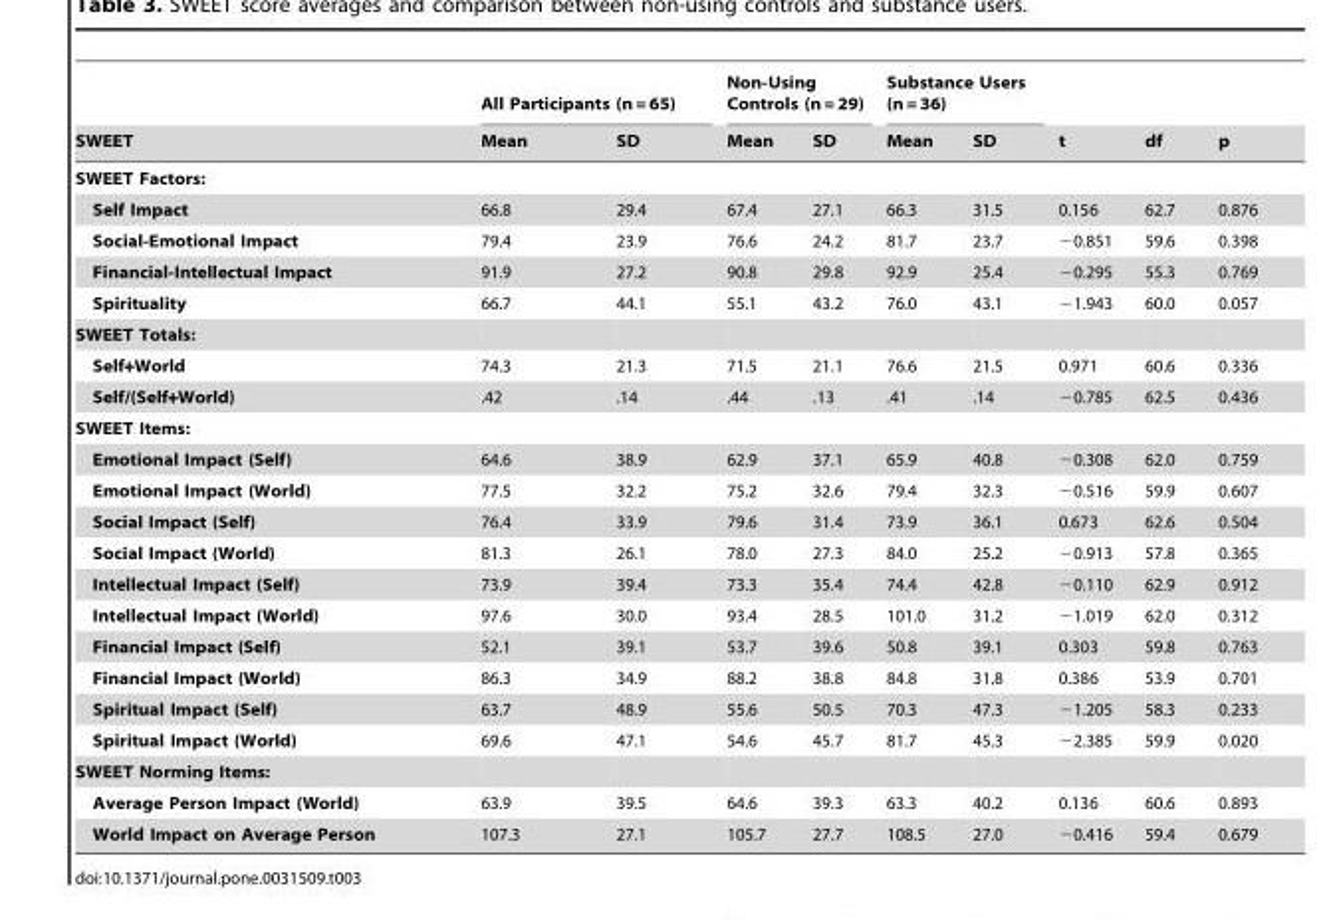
<table><thead><tr><td rowspan="2">SWEET</td><td colspan="2">All Participants (n = 65)</td><td colspan="2">Non-Using Controls (n = 29)</td><td colspan="2">Substance Users (n = 36)</td><td rowspan="2">t</td><td rowspan="2">df</td><td rowspan="2">p</td></tr><tr><td>Mean</td><td>SD</td><td>Mean</td><td>SD</td><td>Mean</td><td>SD</td></tr></thead><tbody><tr><td colspan="10">SWEET Factors:</td></tr><tr><td>Self Impact</td><td>66.8</td><td>29.4</td><td>67.4</td><td>27.1</td><td>66.3</td><td>31.5</td><td>0.156</td><td>62.7</td><td>0.876</td></tr><tr><td>Social-Emotional Impact</td><td>79.4</td><td>23.9</td><td>76.6</td><td>24.2</td><td>81.7</td><td>23.7</td><td>−0.851</td><td>59.6</td><td>0.398</td></tr><tr><td>Financial-Intellectual Impact</td><td>91.9</td><td>27.2</td><td>90.8</td><td>29.8</td><td>92.9</td><td>25.4</td><td>−0.295</td><td>55.3</td><td>0.769</td></tr><tr><td>Spirituality</td><td>66.7</td><td>44.1</td><td>55.1</td><td>43.2</td><td>76.0</td><td>43.1</td><td>−1.943</td><td>60.0</td><td>0.057</td></tr><tr><td colspan="10">SWEET Totals:</td></tr><tr><td>Self+World</td><td>74.3</td><td>21.3</td><td>71.5</td><td>21.1</td><td>76.6</td><td>21.5</td><td>0.971</td><td>60.6</td><td>0.336</td></tr><tr><td>Self/(Self+World)</td><td>.42</td><td>.14</td><td>.44</td><td>.13</td><td>.41</td><td>.14</td><td>−0.785</td><td>62.5</td><td>0.436</td></tr><tr><td colspan="10">SWEET Items:</td></tr><tr><td>Emotional Impact (Self)</td><td>64.6</td><td>38.9</td><td>62.9</td><td>37.1</td><td>65.9</td><td>40.8</td><td>−0.308</td><td>62.0</td><td>0.759</td></tr><tr><td>Emotional Impact (World)</td><td>77.5</td><td>32.2</td><td>75.2</td><td>32.6</td><td>79.4</td><td>32.3</td><td>−0.516</td><td>59.9</td><td>0.607</td></tr><tr><td>Social Impact (Self)</td><td>76.4</td><td>33.9</td><td>79.6</td><td>31.4</td><td>73.9</td><td>36.1</td><td>0.673</td><td>62.6</td><td>0.504</td></tr><tr><td>Social Impact (World)</td><td>81.3</td><td>26.1</td><td>78.0</td><td>27.3</td><td>84.0</td><td>25.2</td><td>−0.913</td><td>57.8</td><td>0.365</td></tr><tr><td>Intellectual Impact (Self)</td><td>73.9</td><td>39.4</td><td>73.3</td><td>35.4</td><td>74.4</td><td>42.8</td><td>−0.110</td><td>62.9</td><td>0.912</td></tr><tr><td>Intellectual Impact (World)</td><td>97.6</td><td>30.0</td><td>93.4</td><td>28.5</td><td>101.0</td><td>31.2</td><td>−1.019</td><td>62.0</td><td>0.312</td></tr><tr><td>Financial Impact (Self)</td><td>52.1</td><td>39.1</td><td>53.7</td><td>39.6</td><td>50.8</td><td>39.1</td><td>0.303</td><td>59.8</td><td>0.763</td></tr><tr><td>Financial Impact (World)</td><td>86.3</td><td>34.9</td><td>88.2</td><td>38.8</td><td>84.8</td><td>31.8</td><td>0.386</td><td>53.9</td><td>0.701</td></tr><tr><td>Spiritual Impact (Self)</td><td>63.7</td><td>48.9</td><td>55.6</td><td>50.5</td><td>70.3</td><td>47.3</td><td>−1.205</td><td>58.3</td><td>0.233</td></tr><tr><td>Spiritual Impact (World)</td><td>69.6</td><td>47.1</td><td>54.6</td><td>45.7</td><td>81.7</td><td>45.3</td><td>−2.385</td><td>59.9</td><td>0.020</td></tr><tr><td colspan="10">SWEET Norming Items:</td></tr><tr><td>Average Person Impact (World)</td><td>63.9</td><td>39.5</td><td>64.6</td><td>39.3</td><td>63.3</td><td>40.2</td><td>0.136</td><td>60.6</td><td>0.893</td></tr><tr><td>World Impact on Average Person</td><td>107.3</td><td>27.1</td><td>105.7</td><td>27.7</td><td>108.5</td><td>27.0</td><td>−0.416</td><td>59.4</td><td>0.679</td></tr></tbody></table>